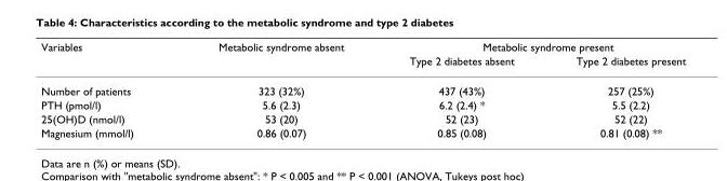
<table><thead><tr><td rowspan="2">Variables</td><td rowspan="2">Metabolic syndrome absent</td><td colspan="2">Metabolic syndrome present</td></tr><tr><td>Type 2 diabetes absent</td><td>Type 2 diabetes present</td></tr></thead><tbody><tr><td>Number of patients</td><td>323 (32%)</td><td>437 (43%)</td><td>257 (25%)</td></tr><tr><td>PTH (pmol/l)</td><td>5.6 (2.3)</td><td>6.2 (2.4) *</td><td>5.5 (2.2)</td></tr><tr><td>25(OH)D (nmol/l)</td><td>53 (20)</td><td>52 (23)</td><td>52 (22)</td></tr><tr><td>Magnesium (mmol/l)</td><td>0.86 (0.07)</td><td>0.85 (0.08)</td><td>0.81 (0.08) **</td></tr></tbody></table>